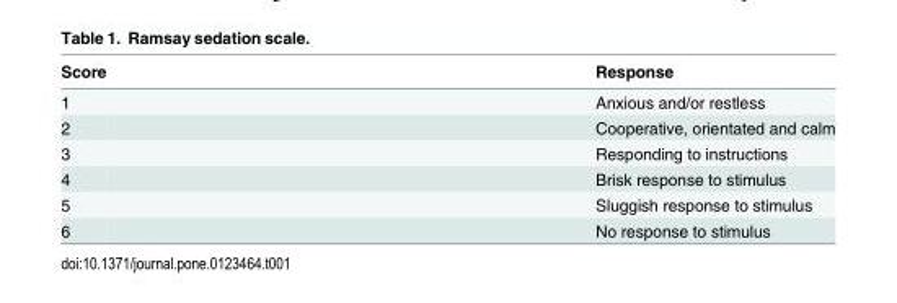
<table><thead><tr><td>Score</td><td>Response</td></tr></thead><tbody><tr><td>1</td><td>Anxious and/or restless</td></tr><tr><td>2</td><td>Cooperative, orientated and calm</td></tr><tr><td>3</td><td>Responding to instructions</td></tr><tr><td>4</td><td>Brisk response to stimulus</td></tr><tr><td>5</td><td>Sluggish response to stimulus</td></tr><tr><td>6</td><td>No response to stimulus</td></tr></tbody></table>